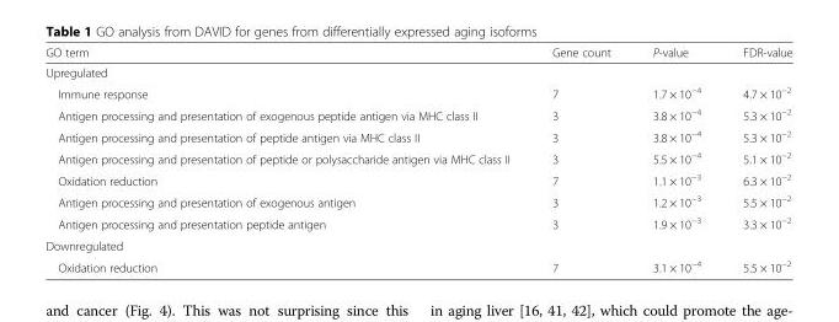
<table><thead><tr><td>GO term</td><td>Gene count</td><td>P-value</td><td>FDR-value</td></tr></thead><tbody><tr><td colspan="4">Upregulated</td></tr><tr><td>Immune response</td><td>7</td><td>1.7 × 10<sup>−4</sup></td><td>4.7 × 10<sup>−2</sup></td></tr><tr><td>Antigen processing and presentation of exogenous peptide antigen via MHC class II</td><td>3</td><td>3.8 × 10<sup>−4</sup></td><td>5.3 × 10<sup>−2</sup></td></tr><tr><td>Antigen processing and presentation of peptide antigen via MHC class II</td><td>3</td><td>3.8 × 10<sup>−4</sup></td><td>5.3 × 10<sup>−2</sup></td></tr><tr><td>Antigen processing and presentation of peptide or polysaccharide antigen via MHC class II</td><td>3</td><td>5.5 × 10<sup>−4</sup></td><td>5.1 × 10<sup>−2</sup></td></tr><tr><td>Oxidation reduction</td><td>7</td><td>1.1 × 10<sup>−3</sup></td><td>6.3 × 10<sup>−2</sup></td></tr><tr><td>Antigen processing and presentation of exogenous antigen</td><td>3</td><td>1.2 × 10<sup>−3</sup></td><td>5.5 × 10<sup>−2</sup></td></tr><tr><td>Antigen processing and presentation peptide antigen</td><td>3</td><td>1.9 × 10<sup>−3</sup></td><td>3.3 × 10<sup>−2</sup></td></tr><tr><td colspan="4">Downregulated</td></tr><tr><td>Oxidation reduction</td><td>7</td><td>3.1 × 10<sup>−4</sup></td><td>5.5 × 10<sup>−2</sup></td></tr></tbody></table>